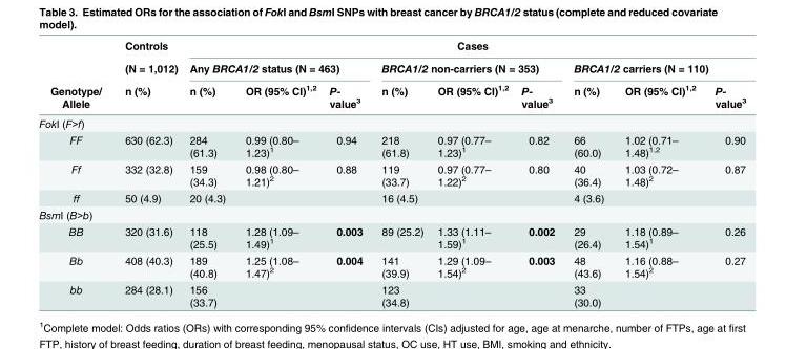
<table><thead><tr><td rowspan="3">Genotype/ Allele</td><td rowspan="3">Controls (N = 1,012) n (%)</td><td colspan="9">Cases</td></tr><tr><td colspan="3">Any BRCA1/2 status (N = 463)</td><td colspan="3">BRCA1/2 non-carriers (N = 353)</td><td colspan="3">BRCA1/2 carriers (N = 110)</td></tr><tr><td>n (%)</td><td>OR (95% CI)<sup>1,2</sup></td><td>P- value<sup>3</sup></td><td>n (%)</td><td>OR (95% CI)<sup>1,2</sup></td><td>P- value<sup>3</sup></td><td>n (%)</td><td>OR (95% CI)<sup>1,2</sup></td><td>P- value<sup>3</sup></td></tr></thead><tbody><tr><td colspan="11">FokI (F&gt;f)</td></tr><tr><td>FF</td><td>630 (62.3)</td><td>284 (61.3)</td><td>0.99 (0.80– 1.23)<sup>1</sup></td><td>0.94</td><td>218 (61.8)</td><td>0.97 (0.77– 1.23)<sup>1</sup></td><td>0.82</td><td>66 (60.0)</td><td>1.02 (0.71– 1.48)<sup>1,2</sup></td><td>0.90</td></tr><tr><td>Ff</td><td>332 (32.8)</td><td>159 (34.3)</td><td>0.98 (0.80– 1.21)<sup>2</sup></td><td>0.88</td><td>119 (33.7)</td><td>0.97 (0.77– 1.22)<sup>2</sup></td><td>0.80</td><td>40 (36.4)</td><td>1.03 (0.72– 1.48)<sup>2</sup></td><td>0.87</td></tr><tr><td>ff</td><td>50 (4.9)</td><td>20 (4.3)</td><td></td><td></td><td>16 (4.5)</td><td></td><td></td><td>4 (3.6)</td><td></td><td></td></tr><tr><td colspan="11">BsmI (B&gt;b)</td></tr><tr><td>BB</td><td>320 (31.6)</td><td>118 (25.5)</td><td>1.28 (1.09– 1.49)<sup>1</sup></td><td>0.003</td><td>89 (25.2)</td><td>1.33 (1.11– 1.59)<sup>1</sup></td><td>0.002</td><td>29 (26.4)</td><td>1.18 (0.89– 1.54)<sup>1</sup></td><td>0.26</td></tr><tr><td>Bb</td><td>408 (40.3)</td><td>189 (40.8)</td><td>1.25 (1.08– 1.47)<sup>2</sup></td><td>0.004</td><td>141 (39.9)</td><td>1.29 (1.09– 1.54)<sup>2</sup></td><td>0.003</td><td>48 (43.6)</td><td>1.16 (0.88– 1.54)<sup>2</sup></td><td>0.27</td></tr><tr><td>bb</td><td>284 (28.1)</td><td>156 (33.7)</td><td></td><td></td><td>123 (34.8)</td><td></td><td></td><td>33 (30.0)</td><td></td><td></td></tr></tbody></table>